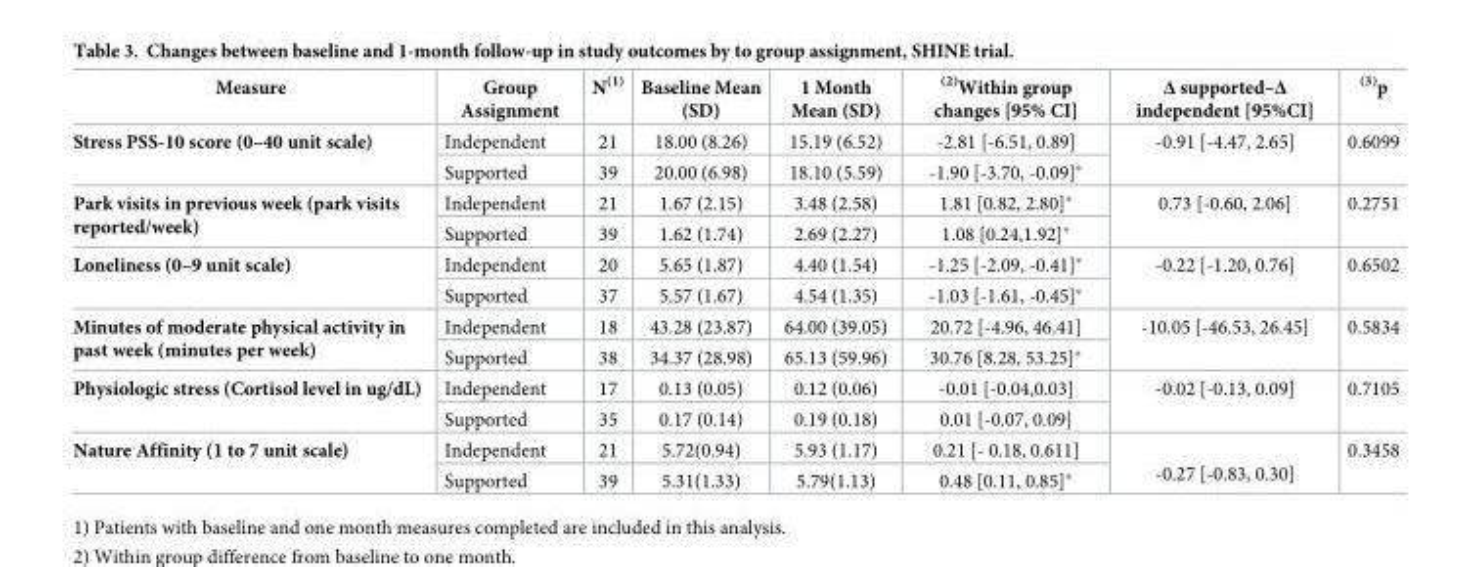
<table><thead><tr><td>Measure</td><td>Group Assignment</td><td>N<sup>(1)</sup></td><td>Baseline Mean (SD)</td><td>1 Month Mean (SD)</td><td><sup>(2)</sup>Within group changes [95% CI]</td><td>Δ supported–Δ independent [95%CI]</td><td><sup>(3)</sup>p</td></tr></thead><tbody><tr><td rowspan="2">Stress PSS-10 score (0–40 unit scale)</td><td>Independent</td><td>21</td><td>18.00 (8.26)</td><td>15.19 (6.52)</td><td>-2.81 [-6.51, 0.89]</td><td rowspan="2">-0.91 [-4.47, 2.65]</td><td rowspan="2">0.6099</td></tr><tr><td>Supported</td><td>39</td><td>20.00 (6.98)</td><td>18.10 (5.59)</td><td>-1.90 [-3.70, -0.09]*</td></tr><tr><td rowspan="2">Park visits in previous week (park visits reported/week)</td><td>Independent</td><td>21</td><td>1.67 (2.15)</td><td>3.48 (2.58)</td><td>1.81 [0.82, 2.80]*</td><td rowspan="2">0.73 [-0.60, 2.06]</td><td rowspan="2">0.2751</td></tr><tr><td>Supported</td><td>39</td><td>1.62 (1.74)</td><td>2.69 (2.27)</td><td>1.08 [0.24,1.92]*</td></tr><tr><td rowspan="2">Loneliness (0–9 unit scale)</td><td>Independent</td><td>20</td><td>5.65 (1.87)</td><td>4.40 (1.54)</td><td>-1.25 [-2.09, -0.41]*</td><td rowspan="2">-0.22 [-1.20, 0.76]</td><td rowspan="2">0.6502</td></tr><tr><td>Supported</td><td>37</td><td>5.57 (1.67)</td><td>4.54 (1.35)</td><td>-1.03 [-1.61, -0.45]*</td></tr><tr><td rowspan="2">Minutes of moderate physical activity in past week (minutes per week)</td><td>Independent</td><td>18</td><td>43.28 (23.87)</td><td>64.00 (39.05)</td><td>20.72 [-4.96, 46.41]</td><td rowspan="2">-10.05 [-46.53, 26.45]</td><td rowspan="2">0.5834</td></tr><tr><td>Supported</td><td>38</td><td>34.37 (28.98)</td><td>65.13 (59.96)</td><td>30.76 [8.28, 53.25]*</td></tr><tr><td rowspan="2">Physiologic stress (Cortisol level in ug/dL)</td><td>Independent</td><td>17</td><td>0.13 (0.05)</td><td>0.12 (0.06)</td><td>-0.01 [-0.04,0.03]</td><td rowspan="2">-0.02 [-0.13, 0.09]</td><td rowspan="2">0.7105</td></tr><tr><td>Supported</td><td>35</td><td>0.17 (0.14)</td><td>0.19 (0.18)</td><td>0.01 [-0.07, 0.09]</td></tr><tr><td rowspan="2">Nature Affinity (1 to 7 unit scale)</td><td>Independent</td><td>21</td><td>5.72(0.94)</td><td>5.93 (1.17)</td><td>0.21 [- 0.18, 0.611]</td><td rowspan="2">-0.27 [-0.83, 0.30]</td><td rowspan="2">0.3458</td></tr><tr><td>Supported</td><td>39</td><td>5.31(1.33)</td><td>5.79(1.13)</td><td>0.48 [0.11, 0.85]*</td></tr></tbody></table>